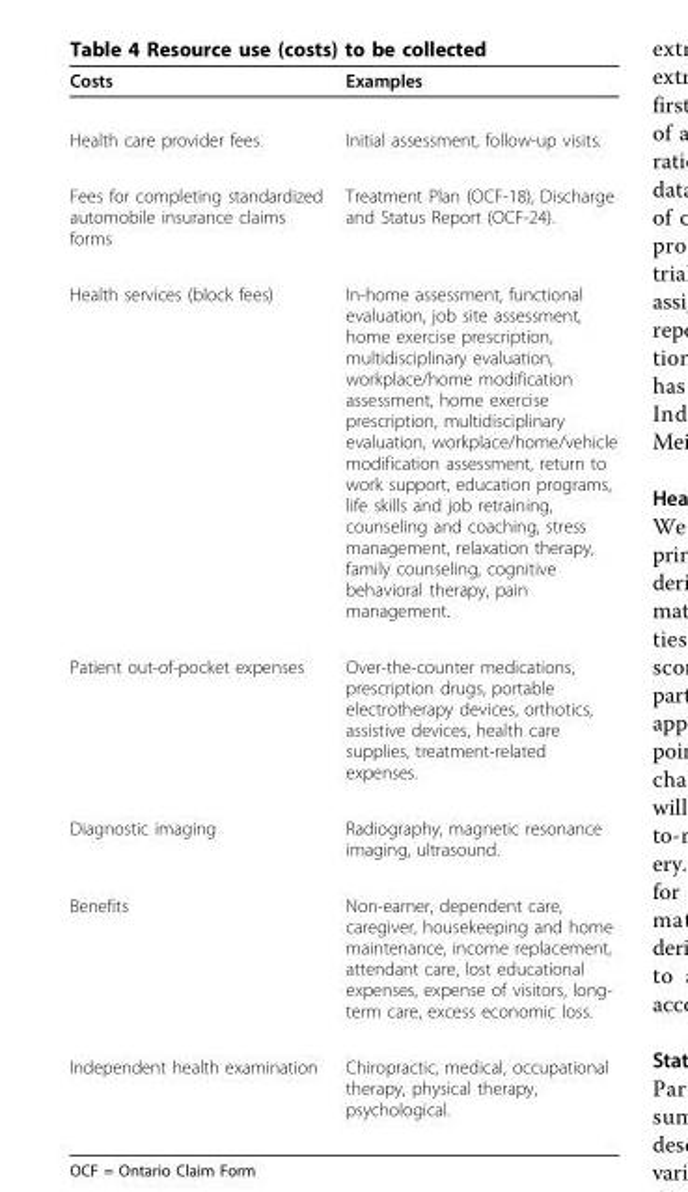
<table><thead><tr><td>Costs</td><td>Examples</td></tr></thead><tbody><tr><td>Health care provider fees</td><td>Initial assessment, follow-up visits.</td></tr><tr><td>Fees for completing standardized automobile insurance claims forms</td><td>Treatment Plan (OCF-18), Discharge and Status Report (OCF-24).</td></tr><tr><td>Health services (block fees)</td><td>In-home assessment, functional evaluation, job site assessment, home exercise prescription, multidisciplinary evaluation, workplace/home modification assessment, home exercise prescription, multidisciplinary evaluation, workplace/home/vehicle modification assessment, return to work support, education programs, life skills and job retraining, counseling and coaching, stress management, relaxation therapy, family counseling, cognitive behavioral therapy, pain management.</td></tr><tr><td>Patient out-of-pocket expenses</td><td>Over-the-counter medications, prescription drugs, portable electrotherapy devices, orthotics, assistive devices, health care supplies, treatment-related expenses.</td></tr><tr><td>Diagnostic imaging</td><td>Radiography, magnetic resonance imaging, ultrasound.</td></tr><tr><td>Benefits</td><td>Non-earner, dependent care, caregiver, housekeeping and home maintenance, income replacement, attendant care, lost educational expenses, expense of visitors, long- term care, excess economic loss.</td></tr><tr><td>Independent health examination</td><td>Chiropractic, medical, occupational therapy, physical therapy, psychological.</td></tr></tbody></table>